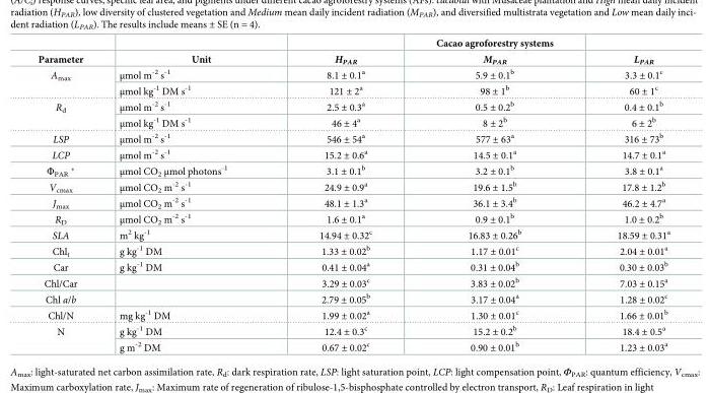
<table><thead><tr><td rowspan="2">Parameter</td><td rowspan="2">Unit</td><td rowspan="2">H<sub>PAR</sub></td><td rowspan="2">Cacao agroforestry systems M<sub>PAR</sub></td><td rowspan="2">L<sub>PAR</sub></td></tr><tr></tr></thead><tbody><tr><td rowspan="2">A<sub>max</sub></td><td>μmol m<sup>-2</sup> s<sup>-1</sup></td><td>8.1 ± 0.1<sup>a</sup></td><td>5.9 ± 0.1<sup>b</sup></td><td>3.3 ± 0.1<sup>c</sup></td></tr><tr><td>μmol kg<sup>-1</sup> DM s<sup>-1</sup></td><td>121 ± 2<sup>a</sup></td><td>98 ± 1<sup>b</sup></td><td>60 ± 1<sup>c</sup></td></tr><tr><td rowspan="2">R<sub>d</sub></td><td>μmol m<sup>-2</sup> s<sup>-1</sup></td><td>2.5 ± 0.3<sup>a</sup></td><td>0.5 ± 0.2<sup>b</sup></td><td>0.4 ± 0.1<sup>b</sup></td></tr><tr><td>μmol kg<sup>-1</sup> DM s<sup>-1</sup></td><td>46 ± 4<sup>a</sup></td><td>8 ± 2<sup>b</sup></td><td>6 ± 2<sup>b</sup></td></tr><tr><td>LSP</td><td>μmol m<sup>-2</sup> s<sup>-1</sup></td><td>546 ± 54<sup>a</sup></td><td>577 ± 63<sup>a</sup></td><td>316 ± 73<sup>b</sup></td></tr><tr><td>LCP</td><td>μmol m<sup>-2</sup> s<sup>-1</sup></td><td>15.2 ± 0.6<sup>a</sup></td><td>14.5 ± 0.1<sup>a</sup></td><td>14.7 ± 0.1<sup>a</sup></td></tr><tr><td>Φ<sub>PAR</sub> *</td><td>μmol CO<sub>2</sub> μmol photons<sup>-1</sup></td><td>3.1 ± 0.1<sup>b</sup></td><td>3.2 ± 0.1<sup>b</sup></td><td>3.8 ± 0.1<sup>a</sup></td></tr><tr><td>V<sub>cmax</sub></td><td>μmol CO<sub>2</sub> m<sup>-2</sup> s<sup>-1</sup></td><td>24.9 ± 0.9<sup>a</sup></td><td>19.6 ± 1.5<sup>b</sup></td><td>17.8 ± 1.2<sup>b</sup></td></tr><tr><td>J<sub>max</sub></td><td>μmol CO<sub>2</sub> m<sup>-2</sup> s<sup>-1</sup></td><td>48.1 ± 1.3<sup>a</sup></td><td>36.1 ± 3.4<sup>b</sup></td><td>46.2 ± 4.7<sup>a</sup></td></tr><tr><td>R<sub>D</sub></td><td>μmol CO<sub>2</sub> m<sup>-2</sup> s<sup>-1</sup></td><td>1.6 ± 0.1<sup>a</sup></td><td>0.9 ± 0.1<sup>b</sup></td><td>1.0 ± 0.2<sup>b</sup></td></tr><tr><td>SLA</td><td>m<sup>2</sup> kg<sup>-1</sup></td><td>14.94 ± 0.32<sup>c</sup></td><td>16.83 ± 0.26<sup>b</sup></td><td>18.59 ± 0.31<sup>a</sup></td></tr><tr><td>Chl<sub>t</sub></td><td>g kg<sup>-1</sup> DM</td><td>1.33 ± 0.02<sup>b</sup></td><td>1.17 ± 0.01<sup>c</sup></td><td>2.04 ± 0.01<sup>a</sup></td></tr><tr><td>Car</td><td>g kg<sup>-1</sup> DM</td><td>0.41 ± 0.04<sup>a</sup></td><td>0.31 ± 0.04<sup>b</sup></td><td>0.30 ± 0.03<sup>b</sup></td></tr><tr><td>Chl/Car</td><td></td><td>3.29 ± 0.03<sup>c</sup></td><td>3.83 ± 0.02<sup>b</sup></td><td>7.03 ± 0.15<sup>a</sup></td></tr><tr><td>Chl a/b</td><td></td><td>2.79 ± 0.05<sup>b</sup></td><td>3.17 ± 0.04<sup>a</sup></td><td>1.28 ± 0.02<sup>c</sup></td></tr><tr><td>Chl/N</td><td>mg kg<sup>-1</sup> DM</td><td>1.99 ± 0.02<sup>a</sup></td><td>1.30 ± 0.01<sup>c</sup></td><td>1.66 ± 0.01<sup>b</sup></td></tr><tr><td rowspan="2">N</td><td>g kg<sup>-1</sup> DM</td><td>12.4 ± 0.3<sup>c</sup></td><td>15.2 ± 0.2<sup>b</sup></td><td>18.4 ± 0.5<sup>a</sup></td></tr><tr><td>g m<sup>-2</sup> DM</td><td>0.67 ± 0.02<sup>c</sup></td><td>0.90 ± 0.01<sup>b</sup></td><td>1.23 ± 0.03<sup>a</sup></td></tr></tbody></table>